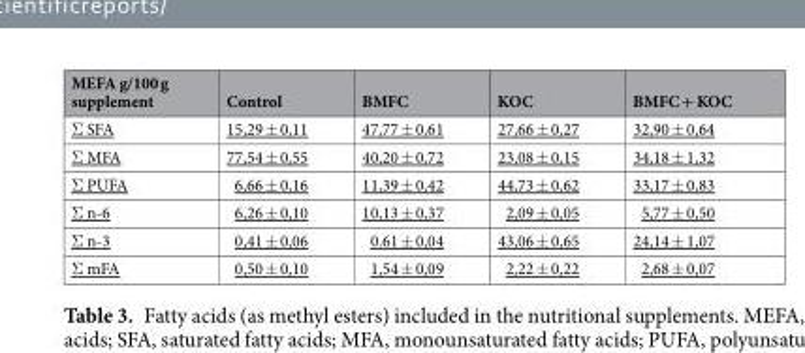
<table><thead><tr><td>MEFA g/100 g supplement</td><td>Control</td><td>BMFC</td><td>KOC</td><td>BMFC + KOC</td></tr></thead><tbody><tr><td>Σ SFA</td><td>15,29 ± 0,11</td><td>47,77 ± 0,61</td><td>27,66 ± 0,27</td><td>32,90 ± 0,64</td></tr><tr><td>Σ MFA</td><td>77,54 ± 0,55</td><td>40,20 ± 0,72</td><td>23,08 ± 0,15</td><td>34,18 ± 1,32</td></tr><tr><td>Σ PUFA</td><td>6,66 ± 0,16</td><td>11,39 ± 0,42</td><td>44,73 ± 0,62</td><td>33,17 ± 0,83</td></tr><tr><td>Σ n-6</td><td>6,26 ± 0,10</td><td>10,13 ± 0,37</td><td>2,09 ± 0,05</td><td>5,77 ± 0,50</td></tr><tr><td>Σ n-3</td><td>0,41 ± 0,06</td><td>0.61 ± 0,04</td><td>43,06 ± 0,65</td><td>24,14 ± 1,07</td></tr><tr><td>Σ mFA</td><td>0,50 ± 0,10</td><td>1,54 ± 0,09</td><td>2,22 ± 0,22</td><td>2,68 ± 0,07</td></tr></tbody></table>